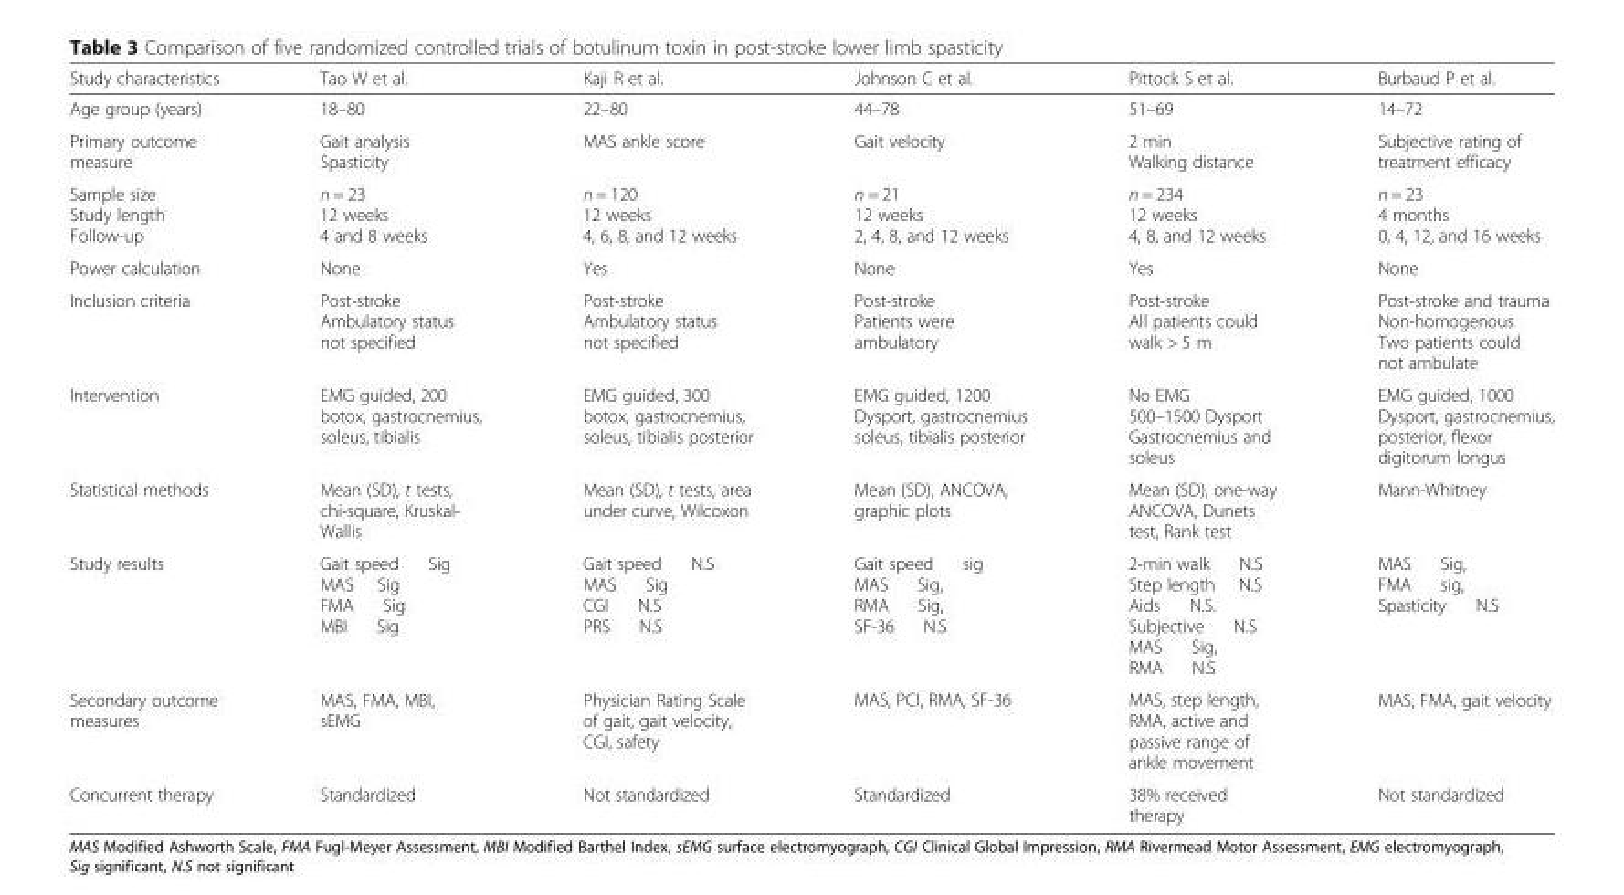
<table><thead><tr><td>Study characteristics</td><td>Tao W et al.</td><td>Kaji R et al.</td><td>Johnson C et al.</td><td>Pittock S et al.</td><td>Burbaud P et al.</td></tr></thead><tbody><tr><td>Age group (years)</td><td>18–80</td><td>22–80</td><td>44–78</td><td>51–69</td><td>14–72</td></tr><tr><td>Primary outcome measure</td><td>Gait analysis Spasticity</td><td>MAS ankle score</td><td>Gait velocity</td><td>2 min Walking distance</td><td>Subjective rating of treatment efficacy</td></tr><tr><td>Sample size Study length Follow-up</td><td>n = 23 12 weeks 4 and 8 weeks</td><td>n = 120 12 weeks 4, 6, 8, and 12 weeks</td><td>n = 21 12 weeks 2, 4, 8, and 12 weeks</td><td>n = 234 12 weeks 4, 8, and 12 weeks</td><td>n = 23 4 months 0, 4, 12, and 16 weeks</td></tr><tr><td>Power calculation</td><td>None</td><td>Yes</td><td>None</td><td>Yes</td><td>None</td></tr><tr><td>Inclusion criteria</td><td>Post-stroke Ambulatory status not specified</td><td>Post-stroke Ambulatory status not specified</td><td>Post-stroke Patients were ambulatory</td><td>Post-stroke All patients could walk &gt; 5 m</td><td>Post-stroke and trauma Non-homogenous Two patients could not ambulate</td></tr><tr><td>Intervention</td><td>EMG guided, 200 botox, gastrocnemius, soleus, tibialis</td><td>EMG guided, 300 botox, gastrocnemius, soleus, tibialis posterior</td><td>EMG guided, 1200 Dysport, gastrocnemius soleus, tibialis posterior</td><td>No EMG 500–1500 Dysport Gastrocnemius and soleus</td><td>EMG guided, 1000 Dysport, gastrocnemius, posterior, flexor digitorum longus</td></tr><tr><td>Statistical methods</td><td>Mean (SD), t tests, chi-square, Kruskal- Wallis</td><td>Mean (SD), t tests, area under curve, Wilcoxon</td><td>Mean (SD), ANCOVA, graphic plots</td><td>Mean (SD), one-way ANCOVA, Dunets test, Rank test</td><td>Mann-Whitney</td></tr><tr><td>Study results</td><td>Gait speed Sig MAS Sig FMA Sig MBI Sig</td><td>Gait speed N.S MAS Sig CGI N.S PRS N.S</td><td>Gait speed sig MAS Sig, RMA Sig, SF-36 N.S</td><td>2-min walk N.S Step length N.S Aids N.S. Subjective N.S MAS Sig, RMA N.S</td><td>MAS Sig, FMA sig, Spasticity N.S</td></tr><tr><td>Secondary outcome measures</td><td>MAS, FMA, MBI, sEMG</td><td>Physician Rating Scale of gait, gait velocity, CGI, safety</td><td>MAS, PCI, RMA, SF-36</td><td>MAS, step length, RMA, active and passive range of ankle movement</td><td>MAS, FMA, gait velocity</td></tr><tr><td>Concurrent therapy</td><td>Standardized</td><td>Not standardized</td><td>Standardized</td><td>38% received therapy</td><td>Not standardized</td></tr></tbody></table>